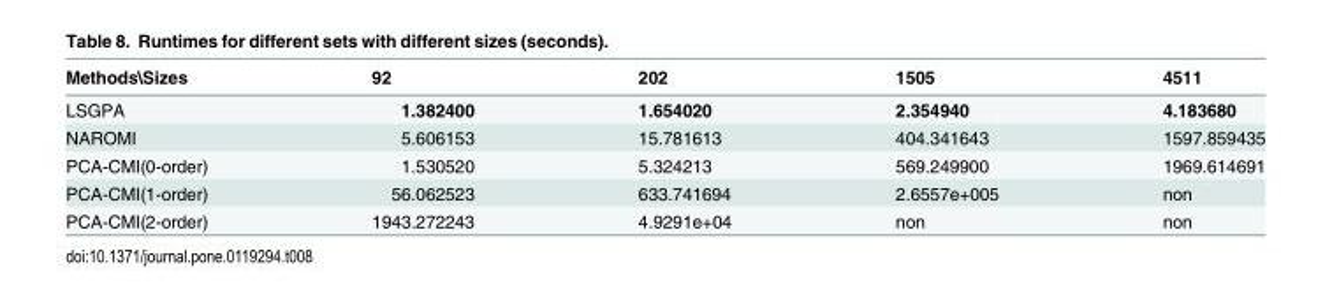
<table><thead><tr><td>Methods\Sizes</td><td>92</td><td>202</td><td>1505</td><td>4511</td></tr></thead><tbody><tr><td>LSGPA</td><td>1.382400</td><td>1.654020</td><td>2.354940</td><td>4.183680</td></tr><tr><td>NAROMI</td><td>5.606153</td><td>15.781613</td><td>404.341643</td><td>1597.859435</td></tr><tr><td>PCA-CMI(0-order)</td><td>1.530520</td><td>5.324213</td><td>569.249900</td><td>1969.614691</td></tr><tr><td>PCA-CMI(1-order)</td><td>56.062523</td><td>633.741694</td><td>2.6557e+005</td><td>non</td></tr><tr><td>PCA-CMI(2-order)</td><td>1943.272243</td><td>4.9291e+04</td><td>non</td><td>non</td></tr></tbody></table>